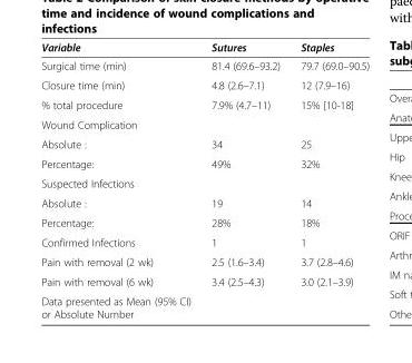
<table><thead><tr><td>Variable</td><td>Sutures</td><td>Staples</td></tr></thead><tbody><tr><td>Surgical time (min)</td><td>81.4 (69.6–93.2)</td><td>79.7 (69.0–90.5)</td></tr><tr><td>Closure time (min)</td><td>4.8 (2.6–7.1)</td><td>12 (7.9–16)</td></tr><tr><td>% total procedure</td><td>7.9% (4.7–11)</td><td>15% [10-18]</td></tr><tr><td colspan="3">Wound Complication</td></tr><tr><td>Absolute :</td><td>34</td><td>25</td></tr><tr><td>Percentage:</td><td>49%</td><td>32%</td></tr><tr><td colspan="3">Suspected Infections</td></tr><tr><td>Absolute :</td><td>19</td><td>14</td></tr><tr><td>Percentage:</td><td>28%</td><td>18%</td></tr><tr><td>Confirmed Infections</td><td>1</td><td>1</td></tr><tr><td>Pain with removal (2 wk)</td><td>2.5 (1.6–3.4)</td><td>3.7 (2.8–4.6)</td></tr><tr><td>Pain with removal (6 wk)</td><td>3.4 (2.5–4.3)</td><td>3.0 (2.1–3.9)</td></tr><tr><td>Data presented as Mean (95% CI) or Absolute Number</td><td></td><td></td></tr></tbody></table>